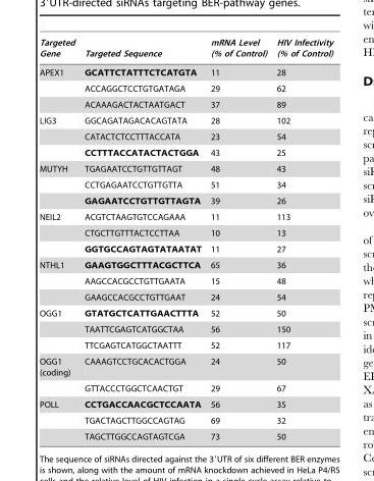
<table><thead><tr><td>Targeted Gene</td><td>Targeted Sequence</td><td>mRNA Level (% of Control)</td><td>HIV Infectivity (% of Control)</td></tr></thead><tbody><tr><td rowspan="3">APEX1</td><td>GCATTCTATTTCTCATGTA</td><td>11</td><td>28</td></tr><tr><td>ACCAGGCTCCTGTGATAGA</td><td>29</td><td>62</td></tr><tr><td>ACAAAGACTACTAATGACT</td><td>37</td><td>89</td></tr><tr><td rowspan="3">LIG3</td><td>GGCAGATAGACACAGTATA</td><td>28</td><td>102</td></tr><tr><td>CATACTCTCCTTTACCATA</td><td>23</td><td>54</td></tr><tr><td>CCTTTACCATACTACTGGA</td><td>43</td><td>25</td></tr><tr><td rowspan="3">MUTYH</td><td>TGAGAATCCTGTTGTTAGT</td><td>48</td><td>43</td></tr><tr><td>CCTGAGAATCCTGTTGTTA</td><td>51</td><td>34</td></tr><tr><td>GAGAATCCTGTTGTTAGTA</td><td>39</td><td>26</td></tr><tr><td rowspan="3">NEIL2</td><td>ACGTCTAAGTGTCCAGAAA</td><td>11</td><td>113</td></tr><tr><td>CTGCTTGTTTACTCCTTAA</td><td>10</td><td>13</td></tr><tr><td>GGTGCCAGTAGTATAATAT</td><td>11</td><td>27</td></tr><tr><td rowspan="3">NTHL1</td><td>GAAGTGGCTTTACGCTTCA</td><td>65</td><td>36</td></tr><tr><td>AAGCCACGCCTGTTGAATA</td><td>15</td><td>48</td></tr><tr><td>GAAGCCACGCCTGTTGAAT</td><td>24</td><td>54</td></tr><tr><td rowspan="3">OGG1</td><td>GTATGCTCATTGAACTTTA</td><td>52</td><td>50</td></tr><tr><td>TAATTCGAGTCATGGCTAA</td><td>56</td><td>150</td></tr><tr><td>TTCGAGTCATGGCTAATTT</td><td>52</td><td>117</td></tr><tr><td rowspan="2">OGG1 (coding)</td><td>CAAAGTCCTGCACACTGGA</td><td>24</td><td>50</td></tr><tr><td>GTTACCCTGGCTCAACTGT</td><td>29</td><td>67</td></tr><tr><td rowspan="3">POLL</td><td>CCTGACCAACGCTCCAATA</td><td>56</td><td>35</td></tr><tr><td>TGACTAGCTTGGCCAGTAG</td><td>69</td><td>32</td></tr><tr><td>TAGCTTGGCCAGTAGTCGA</td><td>73</td><td>50</td></tr></tbody></table>